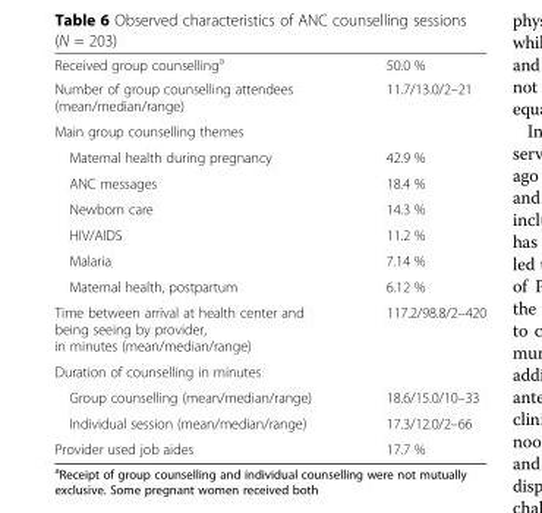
<table><thead><tr><td>Received group counselling<sup>a</sup></td><td>50.0 %</td></tr></thead><tbody><tr><td>Number of group counselling attendees (mean/median/range)</td><td>11.7/13.0/2–21</td></tr><tr><td colspan="2">Main group counselling themes</td></tr><tr><td>Maternal health during pregnancy</td><td>42.9 %</td></tr><tr><td>ANC messages</td><td>18.4 %</td></tr><tr><td>Newborn care</td><td>14.3 %</td></tr><tr><td>HIV/AIDS</td><td>11.2 %</td></tr><tr><td>Malaria</td><td>7.14 %</td></tr><tr><td>Maternal health, postpartum</td><td>6.12 %</td></tr><tr><td>Time between arrival at health center and being seeing by provider, in minutes (mean/median/range)</td><td>117.2/98.8/2–420</td></tr><tr><td colspan="2">Duration of counselling in minutes</td></tr><tr><td>Group counselling (mean/median/range)</td><td>18.6/15.0/10–33</td></tr><tr><td>Individual session (mean/median/range)</td><td>17.3/12.0/2–66</td></tr><tr><td>Provider used job aides</td><td>17.7 %</td></tr></tbody></table>